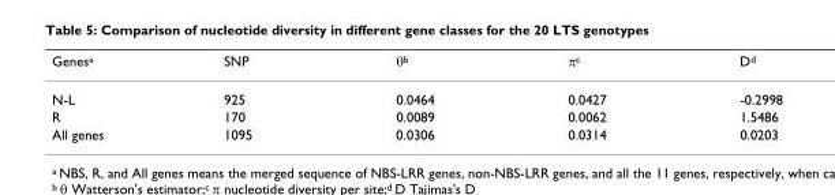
<table><thead><tr><td>Genes<sup>a</sup></td><td>SNP</td><td>θ<sup>b</sup></td><td>π<sup>c</sup></td><td>D<sup>d</sup></td></tr></thead><tbody><tr><td>N-L</td><td>925</td><td>0.0464</td><td>0.0427</td><td>-0.2998</td></tr><tr><td>R</td><td>170</td><td>0.0089</td><td>0.0062</td><td>1.5486</td></tr><tr><td>All genes</td><td>1095</td><td>0.0306</td><td>0.0314</td><td>0.0203</td></tr></tbody></table>